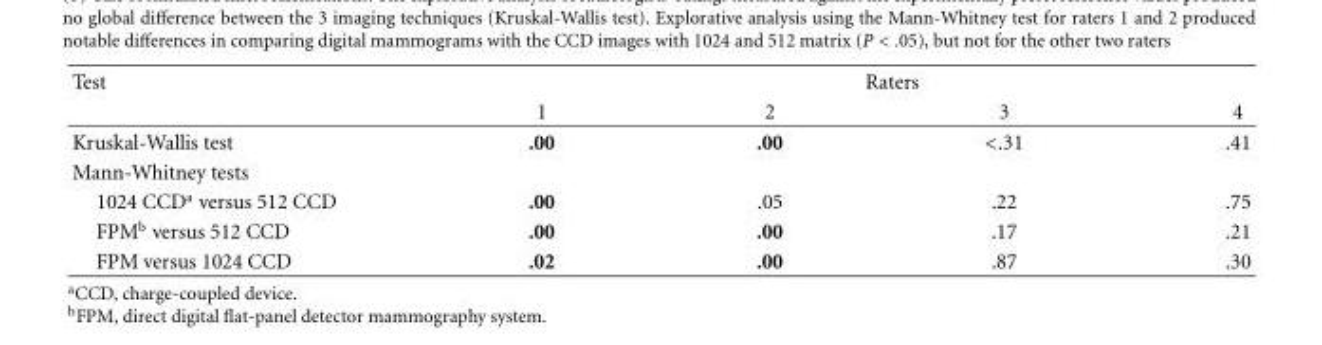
<table><tbody><tr><td rowspan="2">Test</td><td colspan="4">Raters</td></tr><tr><td>1</td><td>2</td><td>3</td><td>4</td></tr><tr><td>Kruskal-Wallis test</td><td>.00</td><td>.00</td><td>&lt;.31</td><td>.41</td></tr><tr><td colspan="5">Mann-Whitney tests</td></tr><tr><td>1024 CCD<sup>a</sup> versus 512 CCD</td><td>.00</td><td>.05</td><td>.22</td><td>.75</td></tr><tr><td>FPM<sup>b</sup> versus 512 CCD</td><td>.00</td><td>.00</td><td>.17</td><td>.21</td></tr><tr><td>FPM versus 1024 CCD</td><td>.02</td><td>.00</td><td>.87</td><td>.30</td></tr></tbody></table>